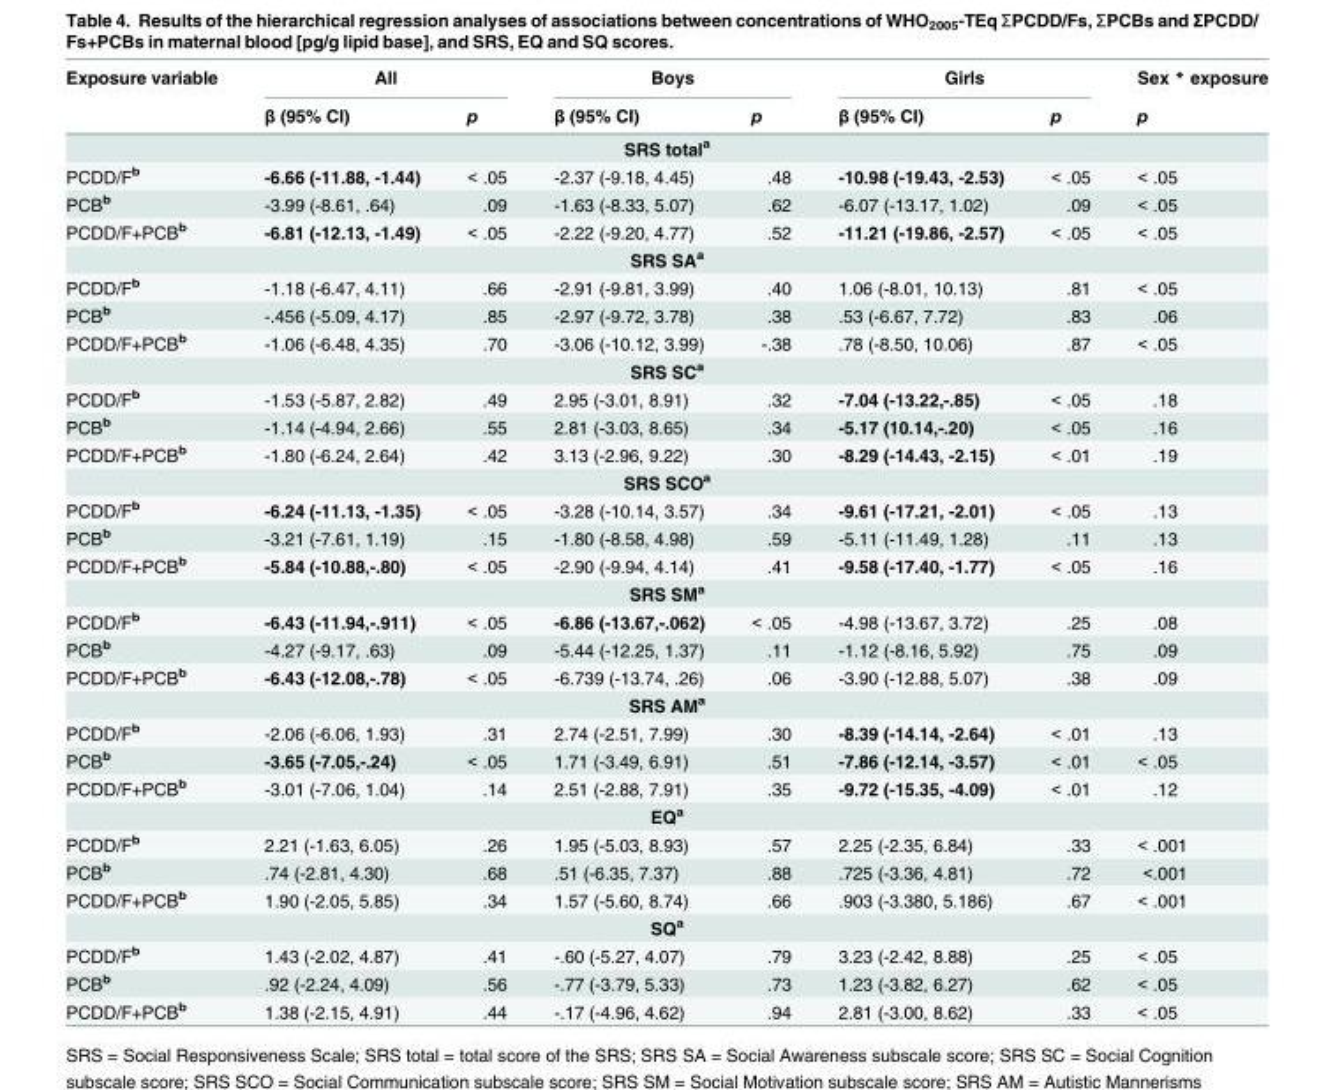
<table><thead><tr><td rowspan="2">Exposure variable</td><td colspan="2">All</td><td colspan="2">Boys</td><td colspan="2">Girls</td><td rowspan="2">Sex * exposure p</td></tr><tr><td>β (95% CI)</td><td>p</td><td>β (95% CI)</td><td>p</td><td>β (95% CI)</td><td>p</td></tr></thead><tbody><tr><td colspan="8">SRS total<sup>a</sup></td></tr><tr><td>PCDD/F<sup>b</sup></td><td>-6.66 (-11.88, -1.44)</td><td>&lt; .05</td><td>-2.37 (-9.18, 4.45)</td><td>.48</td><td>-10.98 (-19.43, -2.53)</td><td>&lt; .05</td><td>&lt; .05</td></tr><tr><td>PCB<sup>b</sup></td><td>-3.99 (-8.61, .64)</td><td>.09</td><td>-1.63 (-8.33, 5.07)</td><td>.62</td><td>-6.07 (-13.17, 1.02)</td><td>.09</td><td>&lt; .05</td></tr><tr><td>PCDD/F+PCB<sup>b</sup></td><td>-6.81 (-12.13, -1.49)</td><td>&lt; .05</td><td>-2.22 (-9.20, 4.77)</td><td>.52</td><td>-11.21 (-19.86, -2.57)</td><td>&lt; .05</td><td>&lt; .05</td></tr><tr><td colspan="8">SRS SA<sup>a</sup></td></tr><tr><td>PCDD/F<sup>b</sup></td><td>-1.18 (-6.47, 4.11)</td><td>.66</td><td>-2.91 (-9.81, 3.99)</td><td>.40</td><td>1.06 (-8.01, 10.13)</td><td>.81</td><td>&lt; .05</td></tr><tr><td>PCB<sup>b</sup></td><td>-.456 (-5.09, 4.17)</td><td>.85</td><td>-2.97 (-9.72, 3.78)</td><td>.38</td><td>.53 (-6.67, 7.72)</td><td>.83</td><td>.06</td></tr><tr><td>PCDD/F+PCB<sup>b</sup></td><td>-1.06 (-6.48, 4.35)</td><td>.70</td><td>-3.06 (-10.12, 3.99)</td><td>-.38</td><td>.78 (-8.50, 10.06)</td><td>.87</td><td>&lt; .05</td></tr><tr><td colspan="8">SRS SC<sup>a</sup></td></tr><tr><td>PCDD/F<sup>b</sup></td><td>-1.53 (-5.87, 2.82)</td><td>.49</td><td>2.95 (-3.01, 8.91)</td><td>.32</td><td>-7.04 (-13.22,-.85)</td><td>&lt; .05</td><td>.18</td></tr><tr><td>PCB<sup>b</sup></td><td>-1.14 (-4.94, 2.66)</td><td>.55</td><td>2.81 (-3.03, 8.65)</td><td>.34</td><td>-5.17 (10.14,-.20)</td><td>&lt; .05</td><td>.16</td></tr><tr><td>PCDD/F+PCB<sup>b</sup></td><td>-1.80 (-6.24, 2.64)</td><td>.42</td><td>3.13 (-2.96, 9.22)</td><td>.30</td><td>-8.29 (-14.43, -2.15)</td><td>&lt; .01</td><td>.19</td></tr><tr><td colspan="8">SRS SCO<sup>a</sup></td></tr><tr><td>PCDD/F<sup>b</sup></td><td>-6.24 (-11.13, -1.35)</td><td>&lt; .05</td><td>-3.28 (-10.14, 3.57)</td><td>.34</td><td>-9.61 (-17.21, -2.01)</td><td>&lt; .05</td><td>.13</td></tr><tr><td>PCB<sup>b</sup></td><td>-3.21 (-7.61, 1.19)</td><td>.15</td><td>-1.80 (-8.58, 4.98)</td><td>.59</td><td>-5.11 (-11.49, 1.28)</td><td>.11</td><td>.13</td></tr><tr><td>PCDD/F+PCB<sup>b</sup></td><td>-5.84 (-10.88,-.80)</td><td>&lt; .05</td><td>-2.90 (-9.94, 4.14)</td><td>.41</td><td>-9.58 (-17.40, -1.77)</td><td>&lt; .05</td><td>.16</td></tr><tr><td colspan="8">SRS SM<sup>a</sup></td></tr><tr><td>PCDD/F<sup>b</sup></td><td>-6.43 (-11.94,-.911)</td><td>&lt; .05</td><td>-6.86 (-13.67,-.062)</td><td>&lt; .05</td><td>-4.98 (-13.67, 3.72)</td><td>.25</td><td>.08</td></tr><tr><td>PCB<sup>b</sup></td><td>-4.27 (-9.17, .63)</td><td>.09</td><td>-5.44 (-12.25, 1.37)</td><td>.11</td><td>-1.12 (-8.16, 5.92)</td><td>.75</td><td>.09</td></tr><tr><td>PCDD/F+PCB<sup>b</sup></td><td>-6.43 (-12.08,-.78)</td><td>&lt; .05</td><td>-6.739 (-13.74, .26)</td><td>.06</td><td>-3.90 (-12.88, 5.07)</td><td>.38</td><td>.09</td></tr><tr><td colspan="8">SRS AM<sup>a</sup></td></tr><tr><td>PCDD/F<sup>b</sup></td><td>-2.06 (-6.06, 1.93)</td><td>.31</td><td>2.74 (-2.51, 7.99)</td><td>.30</td><td>-8.39 (-14.14, -2.64)</td><td>&lt; .01</td><td>.13</td></tr><tr><td>PCB<sup>b</sup></td><td>-3.65 (-7.05,-.24)</td><td>&lt; .05</td><td>1.71 (-3.49, 6.91)</td><td>.51</td><td>-7.86 (-12.14, -3.57)</td><td>&lt; .01</td><td>&lt; .05</td></tr><tr><td>PCDD/F+PCB<sup>b</sup></td><td>-3.01 (-7.06, 1.04)</td><td>.14</td><td>2.51 (-2.88, 7.91)</td><td>.35</td><td>-9.72 (-15.35, -4.09)</td><td>&lt; .01</td><td>.12</td></tr><tr><td colspan="8">EQ<sup>a</sup></td></tr><tr><td>PCDD/F<sup>b</sup></td><td>2.21 (-1.63, 6.05)</td><td>.26</td><td>1.95 (-5.03, 8.93)</td><td>.57</td><td>2.25 (-2.35, 6.84)</td><td>.33</td><td>&lt; .001</td></tr><tr><td>PCB<sup>b</sup></td><td>.74 (-2.81, 4.30)</td><td>.68</td><td>.51 (-6.35, 7.37)</td><td>.88</td><td>.725 (-3.36, 4.81)</td><td>.72</td><td>&lt;.001</td></tr><tr><td>PCDD/F+PCB<sup>b</sup></td><td>1.90 (-2.05, 5.85)</td><td>.34</td><td>1.57 (-5.60, 8.74)</td><td>.66</td><td>.903 (-3.380, 5.186)</td><td>.67</td><td>&lt; .001</td></tr><tr><td colspan="8">SQ<sup>a</sup></td></tr><tr><td>PCDD/F<sup>b</sup></td><td>1.43 (-2.02, 4.87)</td><td>.41</td><td>-.60 (-5.27, 4.07)</td><td>.79</td><td>3.23 (-2.42, 8.88)</td><td>.25</td><td>&lt; .05</td></tr><tr><td>PCB<sup>b</sup></td><td>.92 (-2.24, 4.09)</td><td>.56</td><td>-.77 (-3.79, 5.33)</td><td>.73</td><td>1.23 (-3.82, 6.27)</td><td>.62</td><td>&lt; .05</td></tr><tr><td>PCDD/F+PCB<sup>b</sup></td><td>1.38 (-2.15, 4.91)</td><td>.44</td><td>-.17 (-4.96, 4.62)</td><td>.94</td><td>2.81 (-3.00, 8.62)</td><td>.33</td><td>&lt; .05</td></tr></tbody></table>